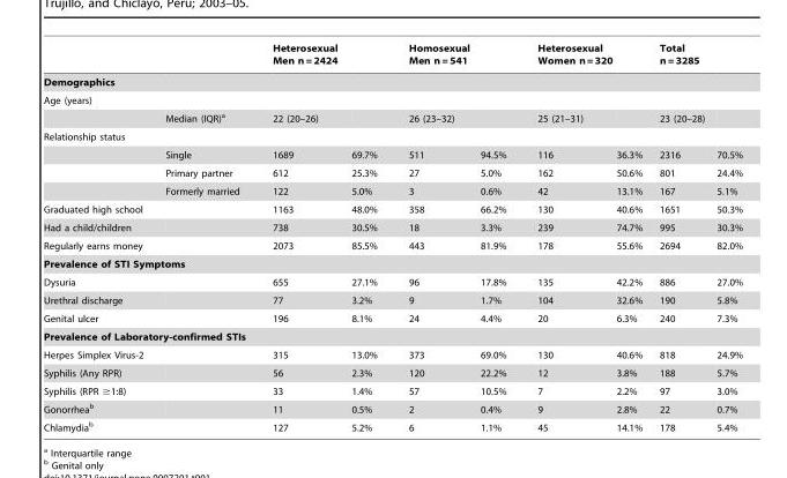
<table><thead><tr><td></td><td></td><td>Heterosexual Men n = 2424</td><td></td><td>Homosexual Men n = 541</td><td></td><td>Heterosexual Women n = 320</td><td></td><td>Total n = 3285</td><td></td></tr></thead><tbody><tr><td colspan="10">Demographics</td></tr><tr><td colspan="10">Age (years)</td></tr><tr><td></td><td>Median (IQR)<sup>a</sup></td><td>22 (20–26)</td><td></td><td>26 (23–32)</td><td></td><td>25 (21–31)</td><td></td><td>23 (20–28)</td><td></td></tr><tr><td colspan="10">Relationship status</td></tr><tr><td></td><td>Single</td><td>1689</td><td>69.7%</td><td>511</td><td>94.5%</td><td>116</td><td>36.3%</td><td>2316</td><td>70.5%</td></tr><tr><td></td><td>Primary partner</td><td>612</td><td>25.3%</td><td>27</td><td>5.0%</td><td>162</td><td>50.6%</td><td>801</td><td>24.4%</td></tr><tr><td></td><td>Formerly married</td><td>122</td><td>5.0%</td><td>3</td><td>0.6%</td><td>42</td><td>13.1%</td><td>167</td><td>5.1%</td></tr><tr><td>Graduated high school</td><td></td><td>1163</td><td>48.0%</td><td>358</td><td>66.2%</td><td>130</td><td>40.6%</td><td>1651</td><td>50.3%</td></tr><tr><td>Had a child/children</td><td></td><td>738</td><td>30.5%</td><td>18</td><td>3.3%</td><td>239</td><td>74.7%</td><td>995</td><td>30.3%</td></tr><tr><td>Regularly earns money</td><td></td><td>2073</td><td>85.5%</td><td>443</td><td>81.9%</td><td>178</td><td>55.6%</td><td>2694</td><td>82.0%</td></tr><tr><td colspan="10">Prevalence of STI Symptoms</td></tr><tr><td>Dysuria</td><td></td><td>655</td><td>27.1%</td><td>96</td><td>17.8%</td><td>135</td><td>42.2%</td><td>886</td><td>27.0%</td></tr><tr><td>Urethral discharge</td><td></td><td>77</td><td>3.2%</td><td>9</td><td>1.7%</td><td>104</td><td>32.6%</td><td>190</td><td>5.8%</td></tr><tr><td>Genital ulcer</td><td></td><td>196</td><td>8.1%</td><td>24</td><td>4.4%</td><td>20</td><td>6.3%</td><td>240</td><td>7.3%</td></tr><tr><td colspan="10">Prevalence of Laboratory-confirmed STIs</td></tr><tr><td>Herpes Simplex Virus-2</td><td></td><td>315</td><td>13.0%</td><td>373</td><td>69.0%</td><td>130</td><td>40.6%</td><td>818</td><td>24.9%</td></tr><tr><td>Syphilis (Any RPR)</td><td></td><td>56</td><td>2.3%</td><td>120</td><td>22.2%</td><td>12</td><td>3.8%</td><td>188</td><td>5.7%</td></tr><tr><td>Syphilis (RPR ≥1:8)</td><td></td><td>33</td><td>1.4%</td><td>57</td><td>10.5%</td><td>7</td><td>2.2%</td><td>97</td><td>3.0%</td></tr><tr><td>Gonorrhea<sup>b</sup></td><td></td><td>11</td><td>0.5%</td><td>2</td><td>0.4%</td><td>9</td><td>2.8%</td><td>22</td><td>0.7%</td></tr><tr><td>Chlamydia<sup>b</sup></td><td></td><td>127</td><td>5.2%</td><td>6</td><td>1.1%</td><td>45</td><td>14.1%</td><td>178</td><td>5.4%</td></tr></tbody></table>